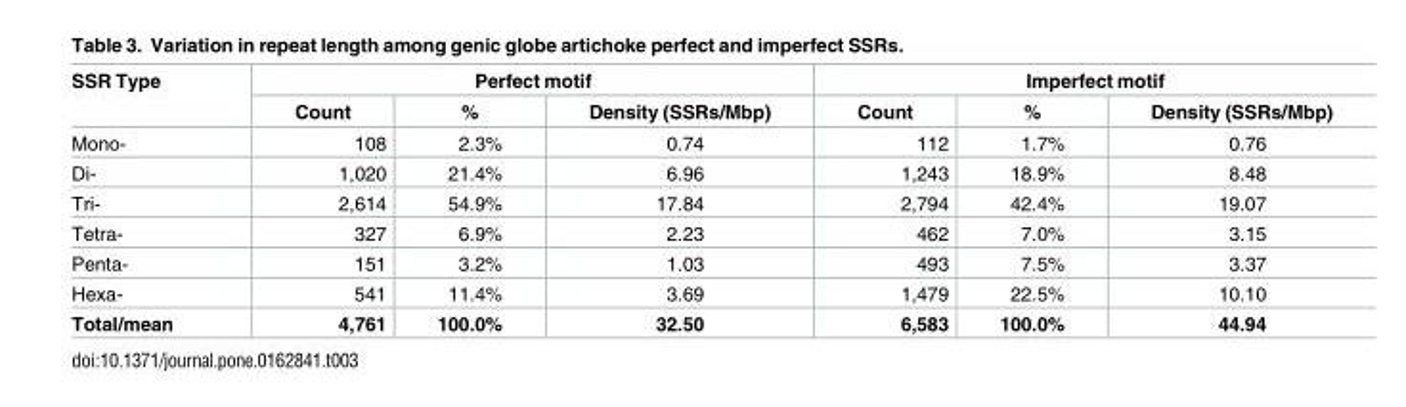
<table><thead><tr><td rowspan="2">SSR Type</td><td colspan="3">Perfect motif</td><td colspan="3">Imperfect motif</td></tr><tr><td>Count</td><td>%</td><td>Density (SSRs/Mbp)</td><td>Count</td><td>%</td><td>Density (SSRs/Mbp)</td></tr></thead><tbody><tr><td>Mono-</td><td>108</td><td>2.3%</td><td>0.74</td><td>112</td><td>1.7%</td><td>0.76</td></tr><tr><td>Di-</td><td>1,020</td><td>21.4%</td><td>6.96</td><td>1,243</td><td>18.9%</td><td>8.48</td></tr><tr><td>Tri-</td><td>2,614</td><td>54.9%</td><td>17.84</td><td>2,794</td><td>42.4%</td><td>19.07</td></tr><tr><td>Tetra-</td><td>327</td><td>6.9%</td><td>2.23</td><td>462</td><td>7.0%</td><td>3.15</td></tr><tr><td>Penta-</td><td>151</td><td>3.2%</td><td>1.03</td><td>493</td><td>7.5%</td><td>3.37</td></tr><tr><td>Hexa-</td><td>541</td><td>11.4%</td><td>3.69</td><td>1,479</td><td>22.5%</td><td>10.10</td></tr><tr><td>Total/mean</td><td>4,761</td><td>100.0%</td><td>32.50</td><td>6,583</td><td>100.0%</td><td>44.94</td></tr></tbody></table>